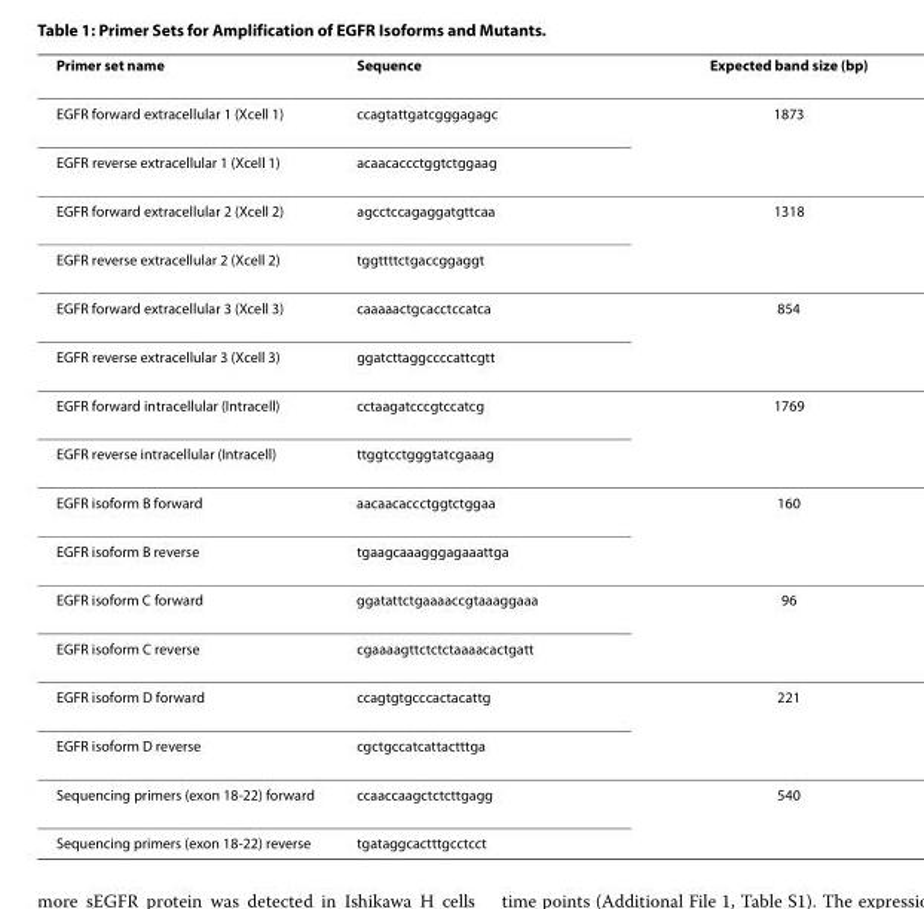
<table><thead><tr><td>Primer set name</td><td>Sequence</td><td>Expected band size (bp)</td></tr></thead><tbody><tr><td>EGFR forward extracellular 1 (Xcell 1)</td><td>ccagtattgatcgggagagc</td><td>1873</td></tr><tr><td>EGFR reverse extracellular 1 (Xcell 1)</td><td>acaacaccctggtctggaag</td><td></td></tr><tr><td>EGFR forward extracellular 2 (Xcell 2)</td><td>agcctccagaggatgttcaa</td><td>1318</td></tr><tr><td>EGFR reverse extracellular 2 (Xcell 2)</td><td>tggttttctgaccggaggt</td><td></td></tr><tr><td>EGFR forward extracellular 3 (Xcell 3)</td><td>caaaaactgcacctccatca</td><td>854</td></tr><tr><td>EGFR reverse extracellular 3 (Xcell 3)</td><td>ggatcttaggccccattcgtt</td><td></td></tr><tr><td>EGFR forward intracellular (Intracell)</td><td>cctaagatcccgtccatcg</td><td>1769</td></tr><tr><td>EGFR reverse intracellular (Intracell)</td><td>ttggtcctgggtatcgaaag</td><td></td></tr><tr><td>EGFR isoform B forward</td><td>aacaacaccctggtctggaa</td><td>160</td></tr><tr><td>EGFR isoform B reverse</td><td>tgaagcaaagggagaaattga</td><td></td></tr><tr><td>EGFR isoform C forward</td><td>ggatattctgaaaaccgtaaaggaaa</td><td>96</td></tr><tr><td>EGFR isoform C reverse</td><td>cgaaaagttctctctaaaacactgatt</td><td></td></tr><tr><td>EGFR isoform D forward</td><td>ccagtgtgcccactacattg</td><td>221</td></tr><tr><td>EGFR isoform D reverse</td><td>cgctgccatcattactttga</td><td></td></tr><tr><td>Sequencing primers (exon 18-22) forward</td><td>ccaaccaagctctcttgagg</td><td>540</td></tr><tr><td>Sequencing primers (exon 18-22) reverse</td><td>tgataggcactttgcctcct</td><td></td></tr></tbody></table>